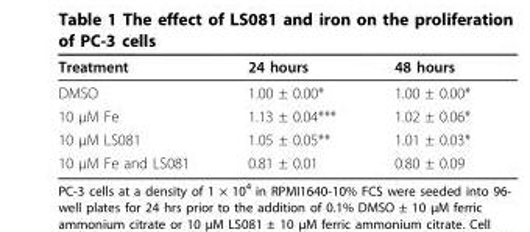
<table><thead><tr><td>Treatment</td><td>24 hours</td><td>48 hours</td></tr></thead><tbody><tr><td>DMSO</td><td>1.00 ± 0.00*</td><td>1.00 ± 0.00*</td></tr><tr><td>10 μM Fe</td><td>1.13 ± 0.04***</td><td>1.02 ± 0.06*</td></tr><tr><td>10 μM LS081</td><td>1.05 ± 0.05**</td><td>1.01 ± 0.03*</td></tr><tr><td>10 μM Fe and LS081</td><td>0.81 ± 0.01</td><td>0.80 ± 0.09</td></tr></tbody></table>